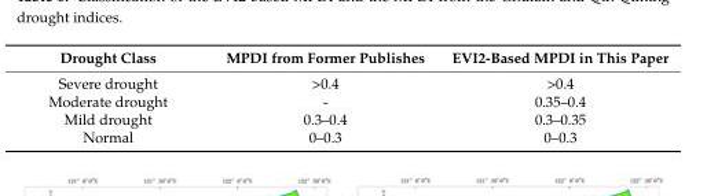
<table><thead><tr><td>Drought Class</td><td>MPDI from Former Publishes</td><td>EVI2-Based MPDI in This Paper</td></tr></thead><tbody><tr><td>Severe drought</td><td>&gt;0.4</td><td>&gt;0.4</td></tr><tr><td>Moderate drought</td><td>-</td><td>0.35–0.4</td></tr><tr><td>Mild drought</td><td>0.3–0.4</td><td>0.3–0.35</td></tr><tr><td>Normal</td><td>0–0.3</td><td>0–0.3</td></tr></tbody></table>